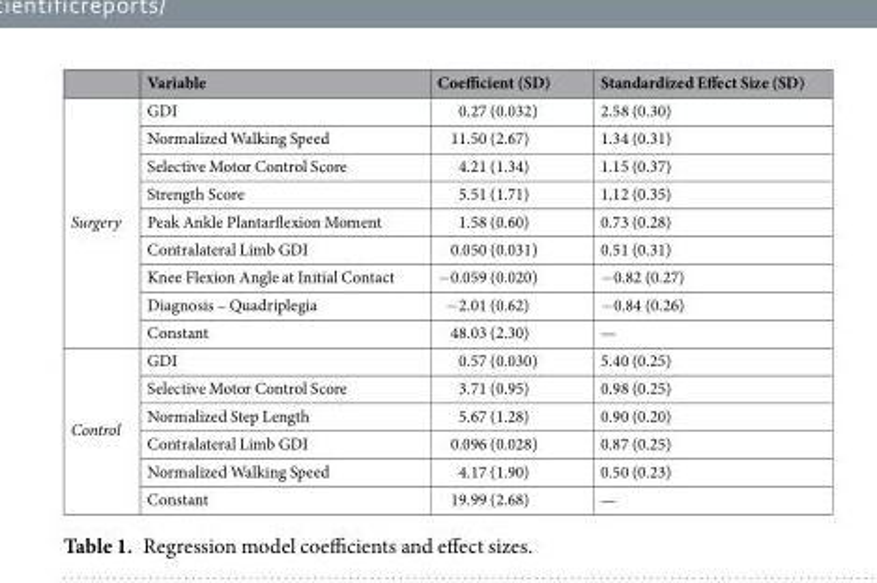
<table><thead><tr><td></td><td>Variable</td><td>Coefficient (SD)</td><td>Standardized Effect Size (SD)</td></tr></thead><tbody><tr><td rowspan="9">Surgery</td><td>GDI</td><td>0.27 (0.032)</td><td>2.58 (0.30)</td></tr><tr><td>Normalized Walking Speed</td><td>11.50 (2.67)</td><td>1.34 (0.31)</td></tr><tr><td>Selective Motor Control Score</td><td>4.21 (1.34)</td><td>1.15 (0.37)</td></tr><tr><td>Strength Score</td><td>5.51 (1.71)</td><td>1.12 (0.35)</td></tr><tr><td>Peak Ankle Plantarflexion Moment</td><td>1.58 (0.60)</td><td>0.73 (0.28)</td></tr><tr><td>Contralateral Limb GDI</td><td>0.050 (0.031)</td><td>0.51 (0.31)</td></tr><tr><td>Knee Flexion Angle at Initial Contact</td><td>−0.059 (0.020)</td><td>−0.82 (0.27)</td></tr><tr><td>Diagnosis – Quadriplegia</td><td>−2.01 (0.62)</td><td>−0.84 (0.26)</td></tr><tr><td>Constant</td><td>48.03 (2.30)</td><td>—</td></tr><tr><td rowspan="6">Control</td><td>GDI</td><td>0.57 (0.030)</td><td>5.40 (0.25)</td></tr><tr><td>Selective Motor Control Score</td><td>3.71 (0.95)</td><td>0.98 (0.25)</td></tr><tr><td>Normalized Step Length</td><td>5.67 (1.28)</td><td>0.90 (0.20)</td></tr><tr><td>Contralateral Limb GDI</td><td>0.096 (0.028)</td><td>0.87 (0.25)</td></tr><tr><td>Normalized Walking Speed</td><td>4.17 (1.90)</td><td>0.50 (0.23)</td></tr><tr><td>Constant</td><td>19.99 (2.68)</td><td>—</td></tr></tbody></table>